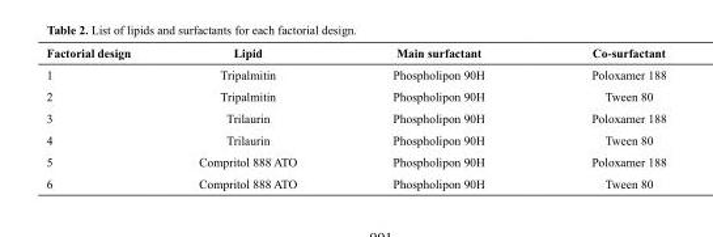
<table><thead><tr><td>Factorial design</td><td>Lipid</td><td>Main surfactant</td><td>Co-surfactant</td></tr></thead><tbody><tr><td>1</td><td>Tripalmitin</td><td>Phospholipon 90H</td><td>Poloxamer 188</td></tr><tr><td>2</td><td>Tripalmitin</td><td>Phospholipon 90H</td><td>Tween 80</td></tr><tr><td>3</td><td>Trilaurin</td><td>Phospholipon 90H</td><td>Poloxamer 188</td></tr><tr><td>4</td><td>Trilaurin</td><td>Phospholipon 90H</td><td>Tween 80</td></tr><tr><td>5</td><td>Compritol 888 ATO</td><td>Phospholipon 90H</td><td>Poloxamer 188</td></tr><tr><td>6</td><td>Compritol 888 ATO</td><td>Phospholipon 90H</td><td>Tween 80</td></tr></tbody></table>